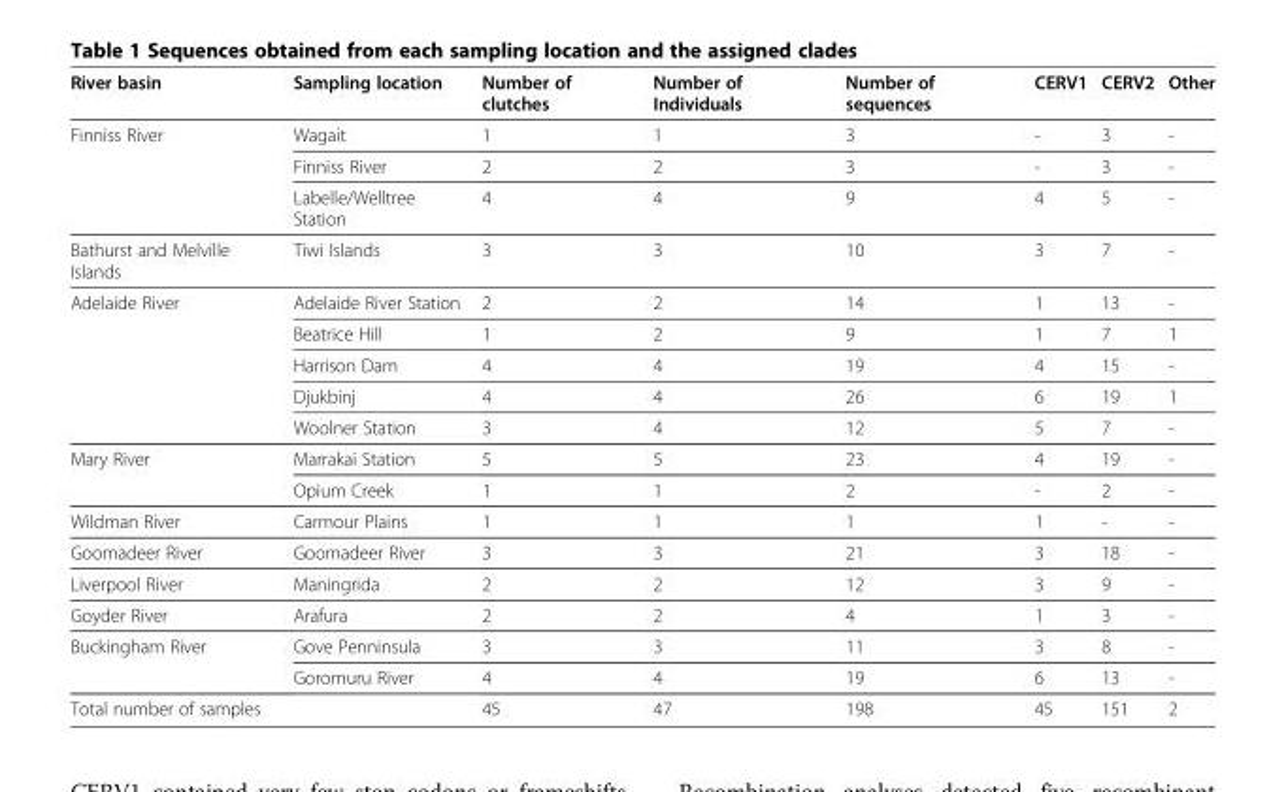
<table><thead><tr><td>River basin</td><td>Sampling location</td><td>Number of clutches</td><td>Number of Individuals</td><td>Number of sequences</td><td>CERV1</td><td>CERV2</td><td>Other</td></tr></thead><tbody><tr><td rowspan="3">Finniss River</td><td>Wagait</td><td>1</td><td>1</td><td>3</td><td>-</td><td>3</td><td>-</td></tr><tr><td>Finniss River</td><td>2</td><td>2</td><td>3</td><td>-</td><td>3</td><td>-</td></tr><tr><td>Labelle/Welltree Station</td><td>4</td><td>4</td><td>9</td><td>4</td><td>5</td><td>-</td></tr><tr><td>Bathurst and Melville Islands</td><td>Tiwi Islands</td><td>3</td><td>3</td><td>10</td><td>3</td><td>7</td><td>-</td></tr><tr><td rowspan="5">Adelaide River</td><td>Adelaide River Station</td><td>2</td><td>2</td><td>14</td><td>1</td><td>13</td><td>-</td></tr><tr><td>Beatrice Hill</td><td>1</td><td>2</td><td>9</td><td>1</td><td>7</td><td>1</td></tr><tr><td>Harrison Dam</td><td>4</td><td>4</td><td>19</td><td>4</td><td>15</td><td>-</td></tr><tr><td>Djukbinj</td><td>4</td><td>4</td><td>26</td><td>6</td><td>19</td><td>1</td></tr><tr><td>Woolner Station</td><td>3</td><td>4</td><td>12</td><td>5</td><td>7</td><td>-</td></tr><tr><td rowspan="2">Mary River</td><td>Marrakai Station</td><td>5</td><td>5</td><td>23</td><td>4</td><td>19</td><td>-</td></tr><tr><td>Opium Creek</td><td>1</td><td>1</td><td>2</td><td>-</td><td>2</td><td>-</td></tr><tr><td>Wildman River</td><td>Carmour Plains</td><td>1</td><td>1</td><td>1</td><td>1</td><td>-</td><td>-</td></tr><tr><td>Goomadeer River</td><td>Goomadeer River</td><td>3</td><td>3</td><td>21</td><td>3</td><td>18</td><td>-</td></tr><tr><td>Liverpool River</td><td>Maningrida</td><td>2</td><td>2</td><td>12</td><td>3</td><td>9</td><td>-</td></tr><tr><td>Goyder River</td><td>Arafura</td><td>2</td><td>2</td><td>4</td><td>1</td><td>3</td><td>-</td></tr><tr><td rowspan="2">Buckingham River</td><td>Gove Penninsula</td><td>3</td><td>3</td><td>11</td><td>3</td><td>8</td><td>-</td></tr><tr><td>Goromuru River</td><td>4</td><td>4</td><td>19</td><td>6</td><td>13</td><td>-</td></tr><tr><td>Total number of samples</td><td></td><td>45</td><td>47</td><td>198</td><td>45</td><td>151</td><td>2</td></tr></tbody></table>